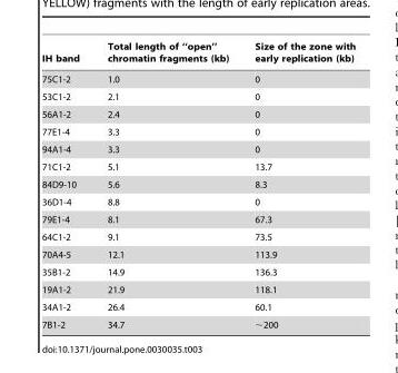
<table><thead><tr><td>IH band</td><td>Total length of ‘‘open’’ chromatin fragments (kb)</td><td>Size of the zone with early replication (kb)</td></tr></thead><tbody><tr><td>75C1-2</td><td>1.0</td><td>0</td></tr><tr><td>53C1-2</td><td>2.1</td><td>0</td></tr><tr><td>56A1-2</td><td>2.4</td><td>0</td></tr><tr><td>77E1-4</td><td>3.3</td><td>0</td></tr><tr><td>94A1-4</td><td>3.3</td><td>0</td></tr><tr><td>71C1-2</td><td>5.1</td><td>13.7</td></tr><tr><td>84D9-10</td><td>5.6</td><td>8.3</td></tr><tr><td>36D1-4</td><td>8.8</td><td>0</td></tr><tr><td>79E1-4</td><td>8.1</td><td>67.3</td></tr><tr><td>64C1-2</td><td>9.1</td><td>73.5</td></tr><tr><td>70A4-5</td><td>12.1</td><td>113.9</td></tr><tr><td>35B1-2</td><td>14.9</td><td>136.3</td></tr><tr><td>19A1-2</td><td>21.9</td><td>118.1</td></tr><tr><td>34A1-2</td><td>26.4</td><td>60.1</td></tr><tr><td>7B1-2</td><td>34.7</td><td>∼200</td></tr></tbody></table>